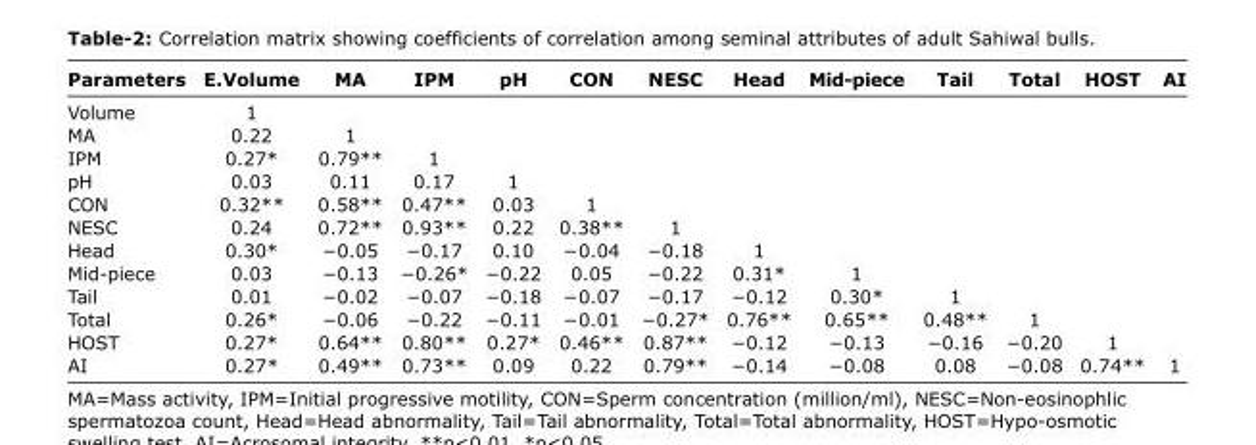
<table><thead><tr><td>Parameters</td><td>E.Volume</td><td>MA</td><td>IPM</td><td>pH</td><td>CON</td><td>NESC</td><td>Head</td><td>Mid-piece</td><td>Tail</td><td>Total</td><td>HOST</td><td>AI</td></tr></thead><tbody><tr><td>Volume</td><td>1</td><td></td><td></td><td></td><td></td><td></td><td></td><td></td><td></td><td></td><td></td><td></td></tr><tr><td>MA</td><td>0.22</td><td>1</td><td></td><td></td><td></td><td></td><td></td><td></td><td></td><td></td><td></td><td></td></tr><tr><td>IPM</td><td>0.27*</td><td>0.79**</td><td>1</td><td></td><td></td><td></td><td></td><td></td><td></td><td></td><td></td><td></td></tr><tr><td>pH</td><td>0.03</td><td>0.11</td><td>0.17</td><td>1</td><td></td><td></td><td></td><td></td><td></td><td></td><td></td><td></td></tr><tr><td>CON</td><td>0.32**</td><td>0.58**</td><td>0.47**</td><td>0.03</td><td>1</td><td></td><td></td><td></td><td></td><td></td><td></td><td></td></tr><tr><td>NESC</td><td>0.24</td><td>0.72**</td><td>0.93**</td><td>0.22</td><td>0.38**</td><td>1</td><td></td><td></td><td></td><td></td><td></td><td></td></tr><tr><td>Head</td><td>0.30*</td><td>−0.05</td><td>−0.17</td><td>0.10</td><td>−0.04</td><td>−0.18</td><td>1</td><td></td><td></td><td></td><td></td><td></td></tr><tr><td>Mid-piece</td><td>0.03</td><td>−0.13</td><td>−0.26*</td><td>−0.22</td><td>0.05</td><td>−0.22</td><td>0.31*</td><td>1</td><td></td><td></td><td></td><td></td></tr><tr><td>Tail</td><td>0.01</td><td>−0.02</td><td>−0.07</td><td>−0.18</td><td>−0.07</td><td>−0.17</td><td>−0.12</td><td>0.30*</td><td>1</td><td></td><td></td><td></td></tr><tr><td>Total</td><td>0.26*</td><td>−0.06</td><td>−0.22</td><td>−0.11</td><td>−0.01</td><td>−0.27*</td><td>0.76**</td><td>0.65**</td><td>0.48**</td><td>1</td><td></td><td></td></tr><tr><td>HOST</td><td>0.27*</td><td>0.64**</td><td>0.80**</td><td>0.27*</td><td>0.46**</td><td>0.87**</td><td>−0.12</td><td>−0.13</td><td>−0.16</td><td>−0.20</td><td>1</td><td></td></tr><tr><td>AI</td><td>0.27*</td><td>0.49**</td><td>0.73**</td><td>0.09</td><td>0.22</td><td>0.79**</td><td>−0.14</td><td>−0.08</td><td>0.08</td><td>−0.08</td><td>0.74**</td><td>1</td></tr></tbody></table>